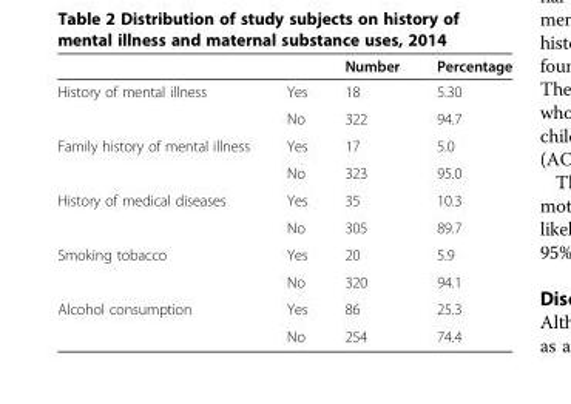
<table><thead><tr><td></td><td></td><td>Number</td><td>Percentage</td></tr></thead><tbody><tr><td rowspan="2">History of mental illness</td><td>Yes</td><td>18</td><td>5.30</td></tr><tr><td>No</td><td>322</td><td>94.7</td></tr><tr><td rowspan="2">Family history of mental illness</td><td>Yes</td><td>17</td><td>5.0</td></tr><tr><td>No</td><td>323</td><td>95.0</td></tr><tr><td rowspan="2">History of medical diseases</td><td>Yes</td><td>35</td><td>10.3</td></tr><tr><td>No</td><td>305</td><td>89.7</td></tr><tr><td rowspan="2">Smoking tobacco</td><td>Yes</td><td>20</td><td>5.9</td></tr><tr><td>No</td><td>320</td><td>94.1</td></tr><tr><td rowspan="2">Alcohol consumption</td><td>Yes</td><td>86</td><td>25.3</td></tr><tr><td>No</td><td>254</td><td>74.4</td></tr></tbody></table>